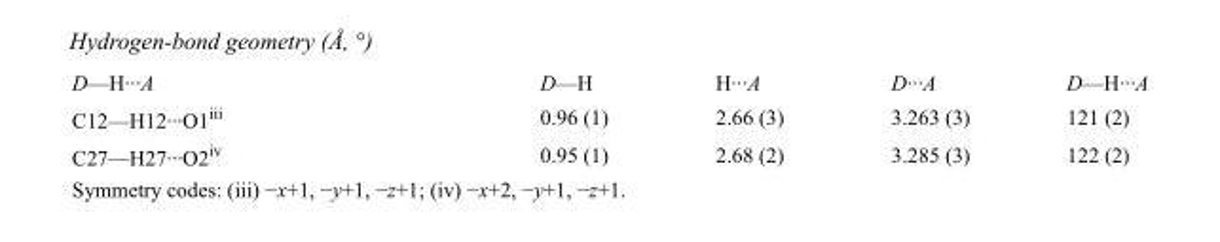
<table><tbody><tr><td>D—H···A</td><td>D—H</td><td>H···A</td><td>D···A</td><td>D—H···A</td></tr><tr><td>C12—H12···O1<sup>iii</sup></td><td>0.96 (1)</td><td>2.66 (3)</td><td>3.263 (3)</td><td>121 (2)</td></tr><tr><td>C27—H27···O2<sup>iv</sup></td><td>0.95 (1)</td><td>2.68 (2)</td><td>3.285 (3)</td><td>122 (2)</td></tr></tbody></table>